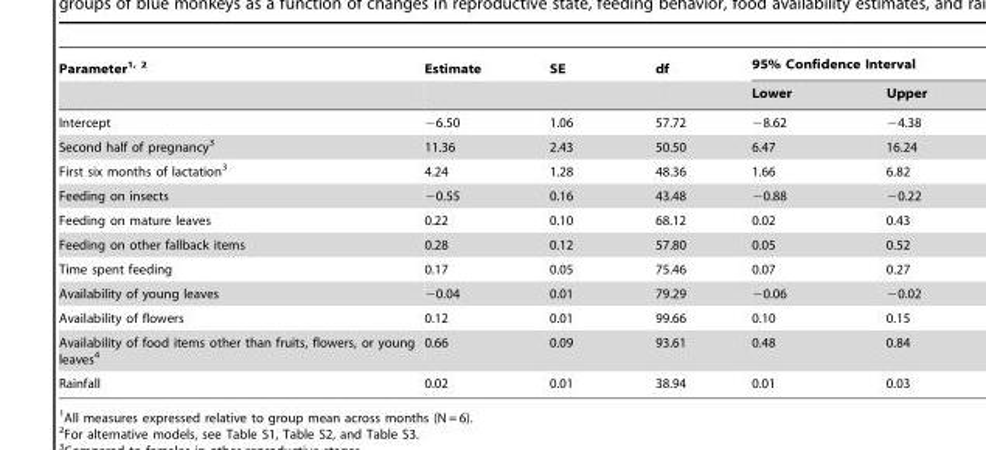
<table><thead><tr><td rowspan="2">Parameter<sup>1, 2</sup></td><td rowspan="2">Estimate</td><td rowspan="2">SE</td><td rowspan="2">df</td><td colspan="2">95% Confidence Interval</td></tr><tr><td>Lower</td><td>Upper</td></tr></thead><tbody><tr><td>Intercept</td><td>−6.50</td><td>1.06</td><td>57.72</td><td>−8.62</td><td>−4.38</td></tr><tr><td>Second half of pregnancy<sup>3</sup></td><td>11.36</td><td>2.43</td><td>50.50</td><td>6.47</td><td>16.24</td></tr><tr><td>First six months of lactation<sup>3</sup></td><td>4.24</td><td>1.28</td><td>48.36</td><td>1.66</td><td>6.82</td></tr><tr><td>Feeding on insects</td><td>−0.55</td><td>0.16</td><td>43.48</td><td>−0.88</td><td>−0.22</td></tr><tr><td>Feeding on mature leaves</td><td>0.22</td><td>0.10</td><td>68.12</td><td>0.02</td><td>0.43</td></tr><tr><td>Feeding on other fallback items</td><td>0.28</td><td>0.12</td><td>57.80</td><td>0.05</td><td>0.52</td></tr><tr><td>Time spent feeding</td><td>0.17</td><td>0.05</td><td>75.46</td><td>0.07</td><td>0.27</td></tr><tr><td>Availability of young leaves</td><td>−0.04</td><td>0.01</td><td>79.29</td><td>−0.06</td><td>−0.02</td></tr><tr><td>Availability of flowers</td><td>0.12</td><td>0.01</td><td>99.66</td><td>0.10</td><td>0.15</td></tr><tr><td>Availability of food items other than fruits, flowers, or young leaves<sup>4</sup></td><td>0.66</td><td>0.09</td><td>93.61</td><td>0.48</td><td>0.84</td></tr><tr><td>Rainfall</td><td>0.02</td><td>0.01</td><td>38.94</td><td>0.01</td><td>0.03</td></tr></tbody></table>